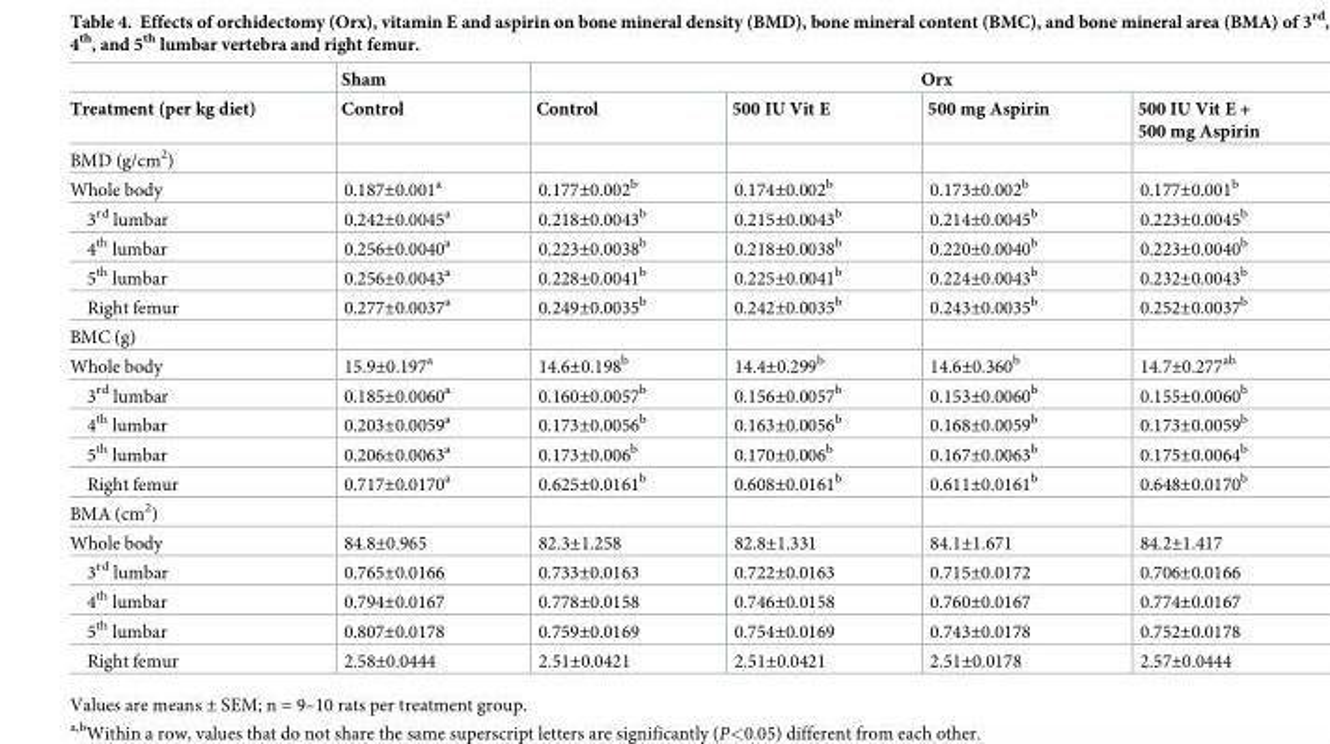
<table><thead><tr><td rowspan="2">Treatment (per kg diet)</td><td rowspan="2">Sham Control</td><td colspan="4">Orx</td></tr><tr><td>Control</td><td>500 IU Vit E</td><td>500 mg Aspirin</td><td>500 IU Vit E + 500 mg Aspirin</td></tr></thead><tbody><tr><td colspan="6">BMD (g/cm<sup>2</sup>)</td></tr><tr><td>Whole body</td><td>0.187±0.001<sup>a</sup></td><td>0.177±0.002<sup>b</sup></td><td>0.174±0.002<sup>b</sup></td><td>0.173±0.002<sup>b</sup></td><td>0.177±0.001<sup>b</sup></td></tr><tr><td>3<sup>rd</sup> lumbar</td><td>0.242±0.0045<sup>a</sup></td><td>0.218±0.0043<sup>b</sup></td><td>0.215±0.0043<sup>b</sup></td><td>0.214±0.0045<sup>b</sup></td><td>0.223±0.0045<sup>b</sup></td></tr><tr><td>4<sup>th</sup> lumbar</td><td>0.256±0.0040<sup>a</sup></td><td>0.223±0.0038<sup>b</sup></td><td>0.218±0.0038<sup>b</sup></td><td>0.220±0.0040<sup>b</sup></td><td>0.223±0.0040<sup>b</sup></td></tr><tr><td>5<sup>th</sup> lumbar</td><td>0.256±0.0043<sup>a</sup></td><td>0.228±0.0041<sup>b</sup></td><td>0.225±0.0041<sup>b</sup></td><td>0.224±0.0043<sup>b</sup></td><td>0.232±0.0043<sup>b</sup></td></tr><tr><td>Right femur</td><td>0.277±0.0037<sup>a</sup></td><td>0.249±0.0035<sup>b</sup></td><td>0.242±0.0035<sup>b</sup></td><td>0.243±0.0035<sup>b</sup></td><td>0.252±0.0037<sup>b</sup></td></tr><tr><td colspan="6">BMC (g)</td></tr><tr><td>Whole body</td><td>15.9±0.197<sup>a</sup></td><td>14.6±0.198<sup>b</sup></td><td>14.4±0.299<sup>b</sup></td><td>14.6±0.360<sup>b</sup></td><td>14.7±0.277<sup>ab</sup></td></tr><tr><td>3<sup>rd</sup> lumbar</td><td>0.185±0.0060<sup>a</sup></td><td>0.160±0.0057<sup>b</sup></td><td>0.156±0.0057<sup>b</sup></td><td>0.153±0.0060<sup>b</sup></td><td>0.155±0.0060<sup>b</sup></td></tr><tr><td>4<sup>th</sup> lumbar</td><td>0.203±0.0059<sup>a</sup></td><td>0.173±0.0056<sup>b</sup></td><td>0.163±0.0056<sup>b</sup></td><td>0.168±0.0059<sup>b</sup></td><td>0.173±0.0059<sup>b</sup></td></tr><tr><td>5<sup>th</sup> lumbar</td><td>0.206±0.0063<sup>a</sup></td><td>0.173±0.006<sup>b</sup></td><td>0.170±0.006<sup>b</sup></td><td>0.167±0.0063<sup>b</sup></td><td>0.175±0.0064<sup>b</sup></td></tr><tr><td>Right femur</td><td>0.717±0.0170<sup>a</sup></td><td>0.625±0.0161<sup>b</sup></td><td>0.608±0.0161<sup>b</sup></td><td>0.611±0.0161<sup>b</sup></td><td>0.648±0.0170<sup>b</sup></td></tr><tr><td colspan="6">BMA (cm<sup>2</sup>)</td></tr><tr><td>Whole body</td><td>84.8±0.965</td><td>82.3±1.258</td><td>82.8±1.331</td><td>84.1±1.671</td><td>84.2±1.417</td></tr><tr><td>3<sup>rd</sup> lumbar</td><td>0.765±0.0166</td><td>0.733±0.0163</td><td>0.722±0.0163</td><td>0.715±0.0172</td><td>0.706±0.0166</td></tr><tr><td>4<sup>th</sup> lumbar</td><td>0.794±0.0167</td><td>0.778±0.0158</td><td>0.746±0.0158</td><td>0.760±0.0167</td><td>0.774±0.0167</td></tr><tr><td>5<sup>th</sup> lumbar</td><td>0.807±0.0178</td><td>0.759±0.0169</td><td>0.754±0.0169</td><td>0.743±0.0178</td><td>0.752±0.0178</td></tr><tr><td>Right femur</td><td>2.58±0.0444</td><td>2.51±0.0421</td><td>2.51±0.0421</td><td>2.51±0.0178</td><td>2.57±0.0444</td></tr></tbody></table>